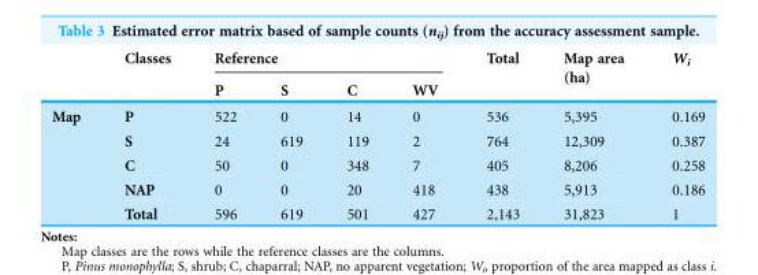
<table><thead><tr><td rowspan="2"></td><td rowspan="2">Classes</td><td colspan="4">Reference</td><td rowspan="2">Total</td><td rowspan="2">Map area (ha)</td><td rowspan="2">W<sub>i</sub></td></tr><tr><td>P</td><td>S</td><td>C</td><td>WV</td></tr></thead><tbody><tr><td rowspan="5">Map</td><td>P</td><td>522</td><td>0</td><td>14</td><td>0</td><td>536</td><td>5,395</td><td>0.169</td></tr><tr><td>S</td><td>24</td><td>619</td><td>119</td><td>2</td><td>764</td><td>12,309</td><td>0.387</td></tr><tr><td>C</td><td>50</td><td>0</td><td>348</td><td>7</td><td>405</td><td>8,206</td><td>0.258</td></tr><tr><td>NAP</td><td>0</td><td>0</td><td>20</td><td>418</td><td>438</td><td>5,913</td><td>0.186</td></tr><tr><td>Total</td><td>596</td><td>619</td><td>501</td><td>427</td><td>2,143</td><td>31,823</td><td>1</td></tr></tbody></table>